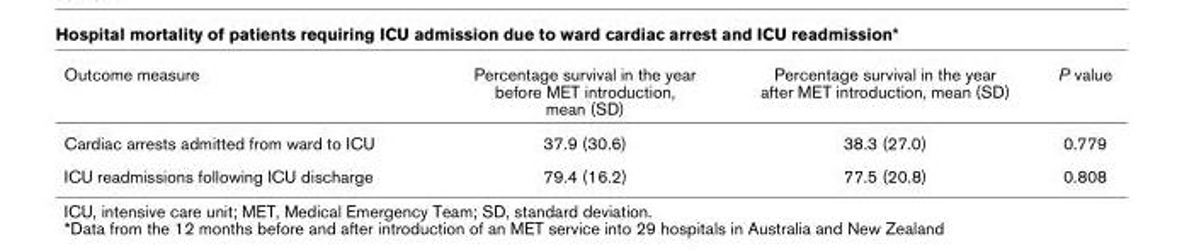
<table><thead><tr><td>Outcome measure</td><td>Percentage survival in the year before MET introduction, mean (SD)</td><td>Percentage survival in the year after MET introduction, mean (SD)</td><td>P value</td></tr></thead><tbody><tr><td>Cardiac arrests admitted from ward to ICU</td><td>37.9 (30.6)</td><td>38.3 (27.0)</td><td>0.779</td></tr><tr><td>ICU readmissions following ICU discharge</td><td>79.4 (16.2)</td><td>77.5 (20.8)</td><td>0.808</td></tr></tbody></table>